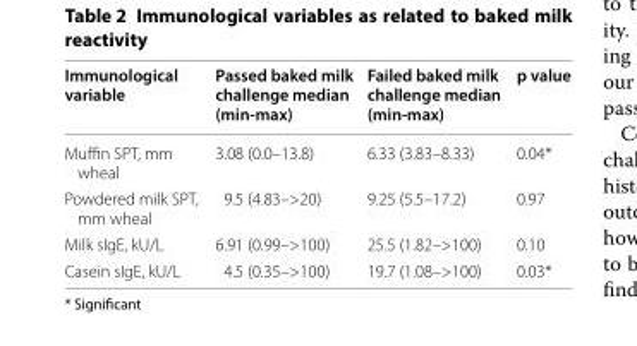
<table><thead><tr><td>Immunological variable</td><td>Passed baked milk challenge median (min-max)</td><td>Failed baked milk challenge median (min-max)</td><td>p value</td></tr></thead><tbody><tr><td>Muffin SPT, mm wheal</td><td>3.08 (0.0–13.8)</td><td>6.33 (3.83–8.33)</td><td>0.04*</td></tr><tr><td>Powdered milk SPT, mm wheal</td><td>9.5 (4.83–&gt;20)</td><td>9.25 (5.5–17.2)</td><td>0.97</td></tr><tr><td>Milk sIgE, kU/L</td><td>6.91 (0.99–&gt;100)</td><td>25.5 (1.82–&gt;100)</td><td>0.10</td></tr><tr><td>Casein sIgE, kU/L</td><td>4.5 (0.35–&gt;100)</td><td>19.7 (1.08–&gt;100)</td><td>0.03*</td></tr></tbody></table>